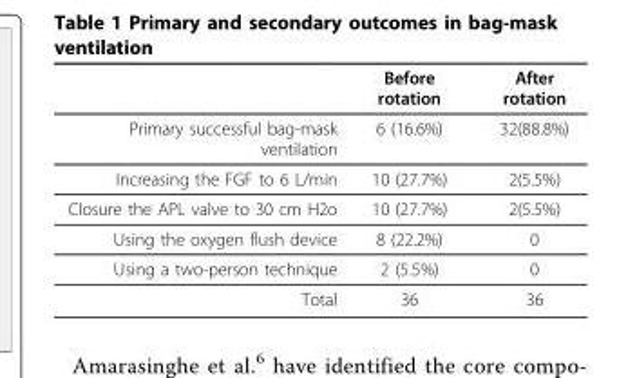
<table><thead><tr><td></td><td>Before rotation</td><td>After rotation</td></tr></thead><tbody><tr><td>Primary successful bag-mask ventilation</td><td>6 (16.6%)</td><td>32(88.8%)</td></tr><tr><td>Increasing the FGF to 6 L/min</td><td>10 (27.7%)</td><td>2(5.5%)</td></tr><tr><td>Closure the APL valve to 30 cm H2o</td><td>10 (27.7%)</td><td>2(5.5%)</td></tr><tr><td>Using the oxygen flush device</td><td>8 (22.2%)</td><td>0</td></tr><tr><td>Using a two-person technique</td><td>2 (5.5%)</td><td>0</td></tr><tr><td>Total</td><td>36</td><td>36</td></tr></tbody></table>